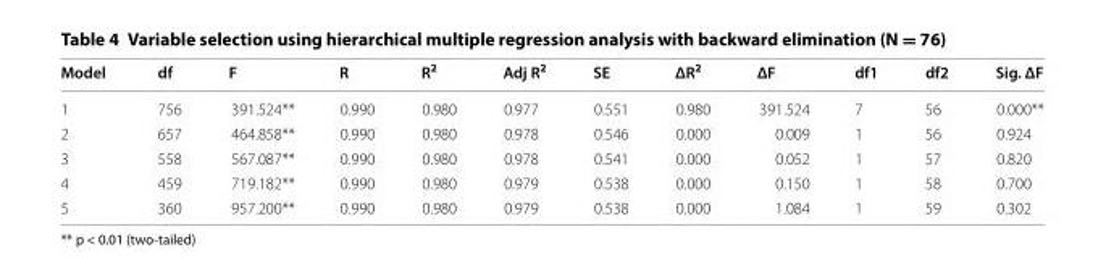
<table><thead><tr><td>Model</td><td>df</td><td>F</td><td>R</td><td>R<sup>2</sup></td><td>Adj R<sup>2</sup></td><td>SE</td><td>ΔR<sup>2</sup></td><td>ΔF</td><td>df1</td><td>df2</td><td>Sig. ΔF</td></tr></thead><tbody><tr><td>1</td><td>756</td><td>391.524**</td><td>0.990</td><td>0.980</td><td>0.977</td><td>0.551</td><td>0.980</td><td>391.524</td><td>7</td><td>56</td><td>0.000**</td></tr><tr><td>2</td><td>657</td><td>464.858**</td><td>0.990</td><td>0.980</td><td>0.978</td><td>0.546</td><td>0.000</td><td>0.009</td><td>1</td><td>56</td><td>0.924</td></tr><tr><td>3</td><td>558</td><td>567.087**</td><td>0.990</td><td>0.980</td><td>0.978</td><td>0.541</td><td>0.000</td><td>0.052</td><td>1</td><td>57</td><td>0.820</td></tr><tr><td>4</td><td>459</td><td>719.182**</td><td>0.990</td><td>0.980</td><td>0.979</td><td>0.538</td><td>0.000</td><td>0.150</td><td>1</td><td>58</td><td>0.700</td></tr><tr><td>5</td><td>360</td><td>957.200**</td><td>0.990</td><td>0.980</td><td>0.979</td><td>0.538</td><td>0.000</td><td>1.084</td><td>1</td><td>59</td><td>0.302</td></tr></tbody></table>